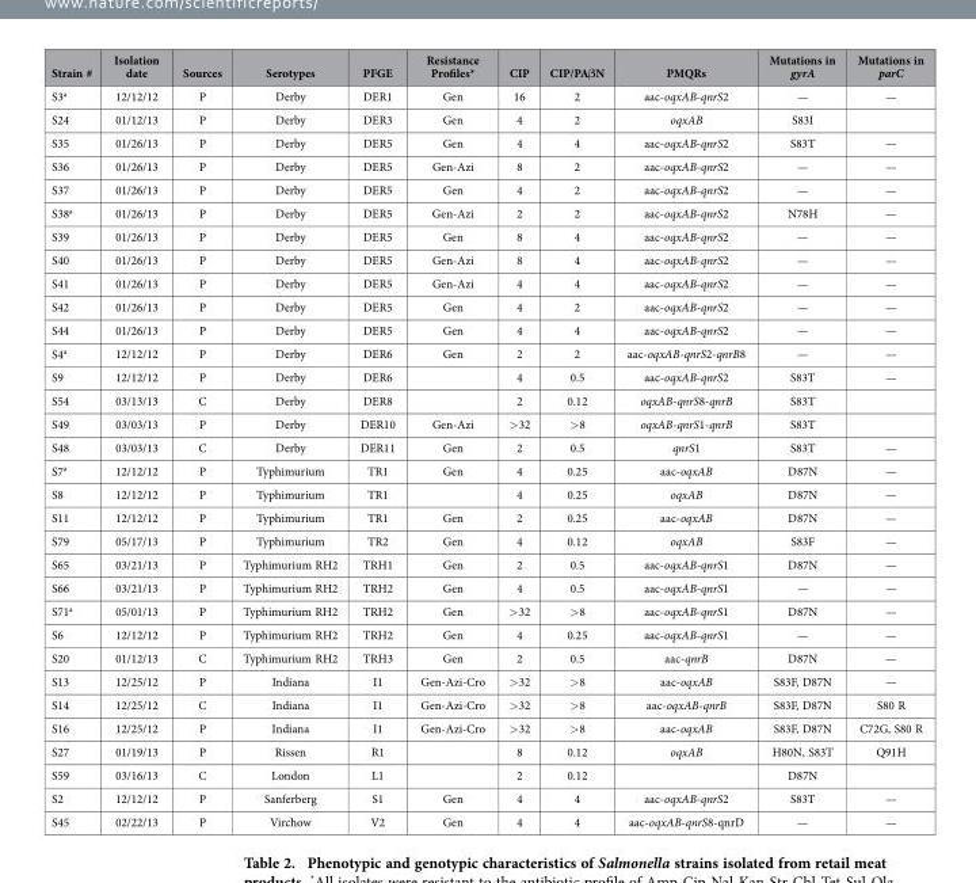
<table><thead><tr><td>Strain #</td><td>Isolation date</td><td>Sources</td><td>Serotypes</td><td>PFGE</td><td>Resistance Profiles*</td><td>CIP</td><td>CIP/PAβN</td><td>PMQRs</td><td>Mutations in gyrA</td><td>Mutations in parC</td></tr></thead><tbody><tr><td>S3<sup>a</sup></td><td>12/12/12</td><td>P</td><td>Derby</td><td>DER1</td><td>Gen</td><td>16</td><td>2</td><td>aac-oqxAB-qnrS2</td><td>—</td><td>—</td></tr><tr><td>S24</td><td>01/12/13</td><td>P</td><td>Derby</td><td>DER3</td><td>Gen</td><td>4</td><td>2</td><td>oqxAB</td><td>S83I</td><td></td></tr><tr><td>S35</td><td>01/26/13</td><td>P</td><td>Derby</td><td>DER5</td><td>Gen</td><td>4</td><td>4</td><td>aac-oqxAB-qnrS2</td><td>S83T</td><td>—</td></tr><tr><td>S36</td><td>01/26/13</td><td>P</td><td>Derby</td><td>DER5</td><td>Gen-Azi</td><td>8</td><td>2</td><td>aac-oqxAB-qnrS2</td><td>—</td><td>—</td></tr><tr><td>S37</td><td>01/26/13</td><td>P</td><td>Derby</td><td>DER5</td><td>Gen</td><td>4</td><td>2</td><td>aac-oqxAB-qnrS2</td><td>—</td><td>—</td></tr><tr><td>S38<sup>a</sup></td><td>01/26/13</td><td>P</td><td>Derby</td><td>DER5</td><td>Gen-Azi</td><td>2</td><td>2</td><td>aac-oqxAB-qnrS2</td><td>N78H</td><td>—</td></tr><tr><td>S39</td><td>01/26/13</td><td>P</td><td>Derby</td><td>DER5</td><td>Gen</td><td>8</td><td>4</td><td>aac-oqxAB-qnrS2</td><td>—</td><td>—</td></tr><tr><td>S40</td><td>01/26/13</td><td>P</td><td>Derby</td><td>DER5</td><td>Gen-Azi</td><td>8</td><td>4</td><td>aac-oqxAB-qnrS2</td><td>—</td><td>—</td></tr><tr><td>S41</td><td>01/26/13</td><td>P</td><td>Derby</td><td>DER5</td><td>Gen-Azi</td><td>4</td><td>4</td><td>aac-oqxAB-qnrS2</td><td>—</td><td>—</td></tr><tr><td>S42</td><td>01/26/13</td><td>P</td><td>Derby</td><td>DER5</td><td>Gen</td><td>4</td><td>2</td><td>aac-oqxAB-qnrS2</td><td>—</td><td>—</td></tr><tr><td>S44</td><td>01/26/13</td><td>P</td><td>Derby</td><td>DER5</td><td>Gen</td><td>4</td><td>4</td><td>aac-oqxAB-qnrS2</td><td>—</td><td>—</td></tr><tr><td>S4<sup>a</sup></td><td>12/12/12</td><td>P</td><td>Derby</td><td>DER6</td><td>Gen</td><td>2</td><td>2</td><td>aac-oqxAB-qnrS2-qnrB8</td><td>—</td><td>—</td></tr><tr><td>S9</td><td>12/12/12</td><td>P</td><td>Derby</td><td>DER6</td><td></td><td>4</td><td>0.5</td><td>aac-oqxAB-qnrS2</td><td>S83T</td><td>—</td></tr><tr><td>S54</td><td>03/13/13</td><td>C</td><td>Derby</td><td>DER8</td><td></td><td>2</td><td>0.12</td><td>oqxAB-qnrS8-qnrB</td><td>S83T</td><td></td></tr><tr><td>S49</td><td>03/03/13</td><td>P</td><td>Derby</td><td>DER10</td><td>Gen-Azi</td><td>&gt; 32</td><td>&gt; 8</td><td>oqxAB-qnrS1-qnrB</td><td>S83T</td><td></td></tr><tr><td>S48</td><td>03/03/13</td><td>C</td><td>Derby</td><td>DER11</td><td>Gen</td><td>2</td><td>0.5</td><td>qnrS1</td><td>S83T</td><td>—</td></tr><tr><td>S7<sup>a</sup></td><td>12/12/12</td><td>P</td><td>Typhimurium</td><td>TR1</td><td>Gen</td><td>4</td><td>0.25</td><td>aac-oqxAB</td><td>D87N</td><td>—</td></tr><tr><td>S8</td><td>12/12/12</td><td>P</td><td>Typhimurium</td><td>TR1</td><td></td><td>4</td><td>0.25</td><td>oqxAB</td><td>D87N</td><td>—</td></tr><tr><td>S11</td><td>12/12/12</td><td>P</td><td>Typhimurium</td><td>TR1</td><td>Gen</td><td>2</td><td>0.25</td><td>aac-oqxAB</td><td>D87N</td><td>—</td></tr><tr><td>S79</td><td>05/17/13</td><td>P</td><td>Typhimurium</td><td>TR2</td><td>Gen</td><td>4</td><td>0.12</td><td>oqxAB</td><td>S83F</td><td>—</td></tr><tr><td>S65</td><td>03/21/13</td><td>P</td><td>Typhimurium RH2</td><td>TRH1</td><td>Gen</td><td>2</td><td>0.5</td><td>aac-oqxAB-qnrS1</td><td>D87N</td><td>—</td></tr><tr><td>S66</td><td>03/21/13</td><td>P</td><td>Typhimurium RH2</td><td>TRH2</td><td>Gen</td><td>4</td><td>0.5</td><td>aac-oqxAB-qnrS1</td><td>—</td><td>—</td></tr><tr><td>S71<sup>a</sup></td><td>05/01/13</td><td>P</td><td>Typhimurium RH2</td><td>TRH2</td><td>Gen</td><td>&gt; 32</td><td>&gt; 8</td><td>aac-oqxAB-qnrS1</td><td>D87N</td><td>—</td></tr><tr><td>S6</td><td>12/12/12</td><td>P</td><td>Typhimurium RH2</td><td>TRH2</td><td>Gen</td><td>4</td><td>0.25</td><td>aac-oqxAB-qnrS1</td><td>—</td><td>—</td></tr><tr><td>S20</td><td>01/12/13</td><td>C</td><td>Typhimurium RH2</td><td>TRH3</td><td>Gen</td><td>2</td><td>0.5</td><td>aac-qnrB</td><td>D87N</td><td>—</td></tr><tr><td>S13</td><td>12/25/12</td><td>P</td><td>Indiana</td><td>I1</td><td>Gen-Azi-Cro</td><td>&gt; 32</td><td>&gt; 8</td><td>aac-oqxAB</td><td>S83F, D87N</td><td>—</td></tr><tr><td>S14</td><td>12/25/12</td><td>C</td><td>Indiana</td><td>I1</td><td>Gen-Azi-Cro</td><td>&gt; 32</td><td>&gt; 8</td><td>aac-oqxAB-qnrB</td><td>S83F, D87N</td><td>S80 R</td></tr><tr><td>S16</td><td>12/25/12</td><td>P</td><td>Indiana</td><td>I1</td><td>Gen-Azi-Cro</td><td>&gt; 32</td><td>&gt; 8</td><td>aac-oqxAB</td><td>S83F, D87N</td><td>C72G, S80 R</td></tr><tr><td>S27</td><td>01/19/13</td><td>P</td><td>Rissen</td><td>R1</td><td></td><td>8</td><td>0.12</td><td>oqxAB</td><td>H80N, S83T</td><td>Q91H</td></tr><tr><td>S59</td><td>03/16/13</td><td>C</td><td>London</td><td>L1</td><td></td><td>2</td><td>0.12</td><td></td><td>D87N</td><td></td></tr><tr><td>S2</td><td>12/12/12</td><td>P</td><td>Sanferberg</td><td>S1</td><td>Gen</td><td>4</td><td>4</td><td>aac-oqxAB-qnrS2</td><td>S83T</td><td>—</td></tr><tr><td>S45</td><td>02/22/13</td><td>P</td><td>Virchow</td><td>V2</td><td>Gen</td><td>4</td><td>4</td><td>aac-oqxAB-qnrS8-qnrD</td><td>—</td><td>—</td></tr></tbody></table>